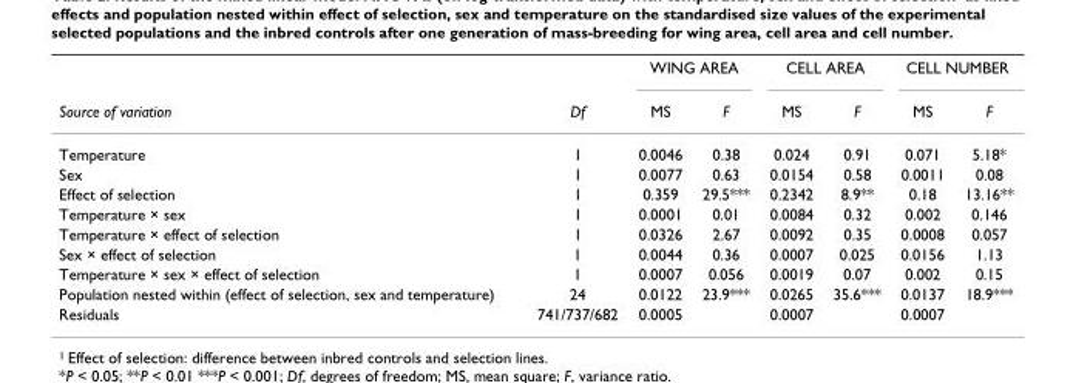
<table><thead><tr><td rowspan="2">Source of variation</td><td rowspan="2">Df</td><td colspan="2">WING AREA</td><td colspan="2">CELL AREA</td><td colspan="2">CELL NUMBER</td></tr><tr><td>MS</td><td>F</td><td>MS</td><td>F</td><td>MS</td><td>F</td></tr></thead><tbody><tr><td>Temperature</td><td>1</td><td>0.0046</td><td>0.38</td><td>0.024</td><td>0.91</td><td>0.071</td><td>5.18*</td></tr><tr><td>Sex</td><td>1</td><td>0.0077</td><td>0.63</td><td>0.0154</td><td>0.58</td><td>0.0011</td><td>0.08</td></tr><tr><td>Effect of selection</td><td>1</td><td>0.359</td><td>29.5***</td><td>0.2342</td><td>8.9**</td><td>0.18</td><td>13.16**</td></tr><tr><td>Temperature × sex</td><td>1</td><td>0.0001</td><td>0.01</td><td>0.0084</td><td>0.32</td><td>0.002</td><td>0.146</td></tr><tr><td>Temperature × effect of selection</td><td>1</td><td>0.0326</td><td>2.67</td><td>0.0092</td><td>0.35</td><td>0.0008</td><td>0.057</td></tr><tr><td>Sex × effect of selection</td><td>1</td><td>0.0044</td><td>0.36</td><td>0.0007</td><td>0.025</td><td>0.0156</td><td>1.13</td></tr><tr><td>Temperature × sex × effect of selection</td><td>1</td><td>0.0007</td><td>0.056</td><td>0.0019</td><td>0.07</td><td>0.002</td><td>0.15</td></tr><tr><td>Population nested within (effect of selection, sex and temperature)</td><td>24</td><td>0.0122</td><td>23.9***</td><td>0.0265</td><td>35.6***</td><td>0.0137</td><td>18.9***</td></tr><tr><td>Residuals</td><td>741/737/682</td><td>0.0005</td><td></td><td>0.0007</td><td></td><td>0.0007</td><td></td></tr></tbody></table>